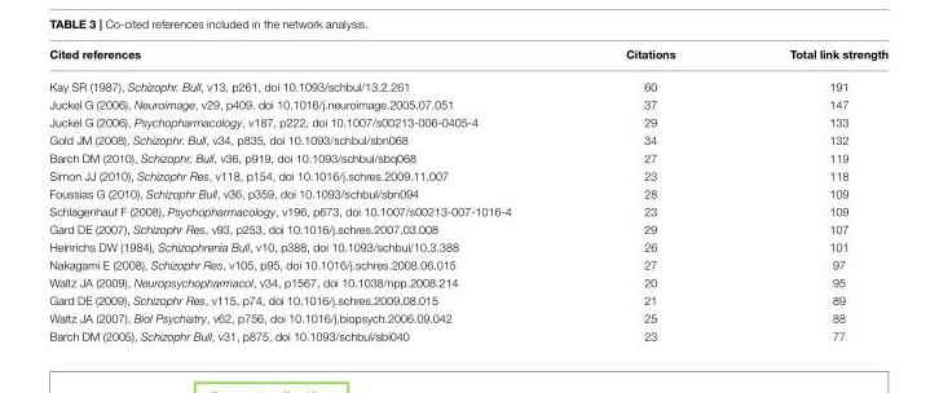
<table><thead><tr><td>Cited references</td><td>Citations</td><td>Total link strength</td></tr></thead><tbody><tr><td>Kay SR (1987), Schizophr. Bull, v13, p261, doi 10.1093/schbul/13.2.261</td><td>60</td><td>191</td></tr><tr><td>Juckel G (2006), Neuroimage, v29, p409, doi 10.1016/j.neuroimage.2005.07.051</td><td>37</td><td>147</td></tr><tr><td>Juckel G (2006), Psychopharmacology, v187, p222, doi 10.1007/s00213-006-0405-4</td><td>29</td><td>133</td></tr><tr><td>Gold JM (2008), Schizophr. Bull, v34, p835, doi 10.1093/schbul/sbn068</td><td>34</td><td>132</td></tr><tr><td>Barch DM (2010), Schizophr. Bull, v36, p919, doi 10.1093/schbul/sbq068</td><td>27</td><td>119</td></tr><tr><td>Simon JJ (2010), Schizophr Res, v118, p154, doi 10.1016/j.schres.2009.11.007</td><td>23</td><td>118</td></tr><tr><td>Foussias G (2010), Schizophr Bull, v36, p359, doi 10.1093/schbul/sbn094</td><td>28</td><td>109</td></tr><tr><td>Schlagenhauf F (2008), Psychopharmacology, v196, p673, doi 10.1007/s00213-007-1016-4</td><td>23</td><td>109</td></tr><tr><td>Gard DE (2007), Schizophr Res, v93, p253, doi 10.1016/j.schres.2007.03.008</td><td>29</td><td>107</td></tr><tr><td>Heinrichs DW (1984), Schizophrenia Bull, v10, p388, doi 10.1093/schbul/10.3.388</td><td>26</td><td>101</td></tr><tr><td>Nakagami E (2008), Schizophr Res, v105, p95, doi 10.1016/j.schres.2008.06.015</td><td>27</td><td>97</td></tr><tr><td>Waltz JA (2009), Neuropsychopharmacol, v34, p1567, doi 10.1038/npp.2008.214</td><td>20</td><td>95</td></tr><tr><td>Gard DE (2009), Schizophr Res, v115, p74, doi 10.1016/j.schres.2009.08.015</td><td>21</td><td>89</td></tr><tr><td>Waltz JA (2007), Biol Psychiatry, v62, p756, doi 10.1016/j.biopsych.2006.09.042</td><td>25</td><td>88</td></tr><tr><td>Barch DM (2005), Schizophr Bull, v31, p875, doi 10.1093/schbul/sbi040</td><td>23</td><td>77</td></tr></tbody></table>